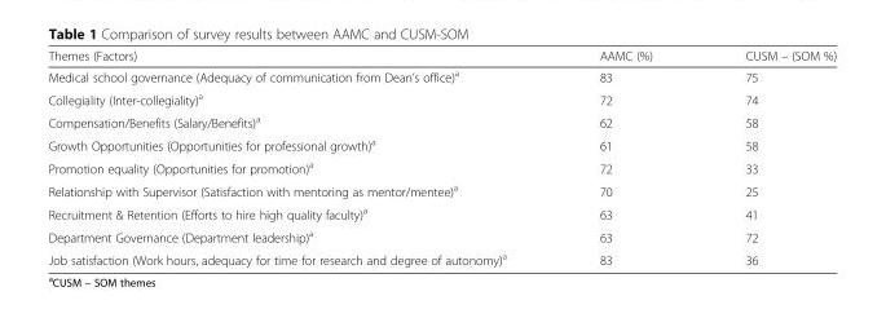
<table><thead><tr><td>Themes (Factors)</td><td>AAMC (%)</td><td>CUSM – (SOM %)</td></tr></thead><tbody><tr><td>Medical school governance (Adequacy of communication from Dean’s office)<sup>a</sup></td><td>83</td><td>75</td></tr><tr><td>Collegiality (Inter-collegiality)<sup>a</sup></td><td>72</td><td>74</td></tr><tr><td>Compensation/Benefits (Salary/Benefits)<sup>a</sup></td><td>62</td><td>58</td></tr><tr><td>Growth Opportunities (Opportunities for professional growth)<sup>a</sup></td><td>61</td><td>58</td></tr><tr><td>Promotion equality (Opportunities for promotion)<sup>a</sup></td><td>72</td><td>33</td></tr><tr><td>Relationship with Supervisor (Satisfaction with mentoring as mentor/mentee)<sup>a</sup></td><td>70</td><td>25</td></tr><tr><td>Recruitment &amp; Retention (Efforts to hire high quality faculty)<sup>a</sup></td><td>63</td><td>41</td></tr><tr><td>Department Governance (Department leadership)<sup>a</sup></td><td>63</td><td>72</td></tr><tr><td>Job satisfaction (Work hours, adequacy for time for research and degree of autonomy)<sup>a</sup></td><td>83</td><td>36</td></tr></tbody></table>